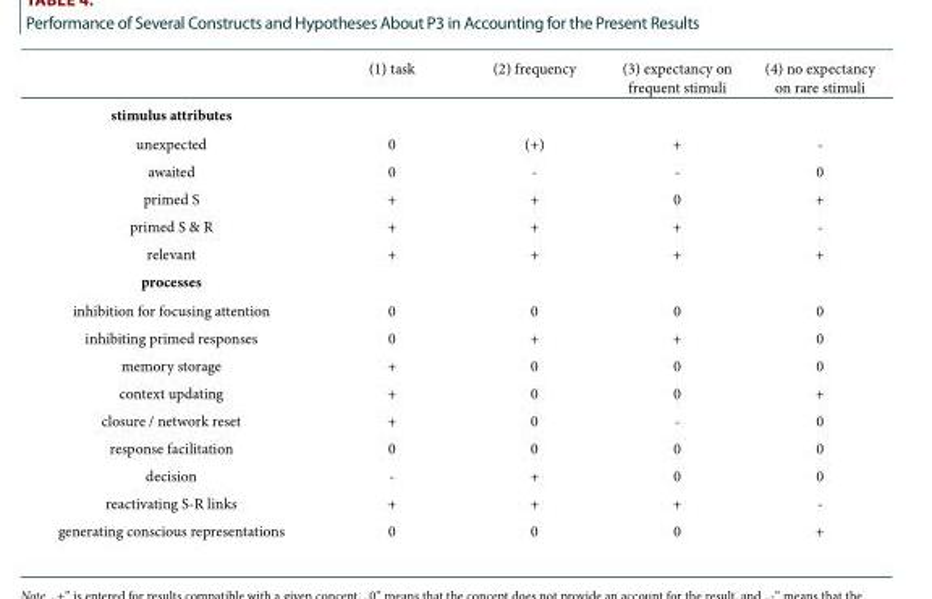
<table><thead><tr><td></td><td>(1) task</td><td>(2) frequency</td><td>(3) expectancy on frequent stimuli</td><td>(4) no expectancy on rare stimuli</td></tr></thead><tbody><tr><td colspan="5">stimulus attributes</td></tr><tr><td>unexpected</td><td>0</td><td>(+)</td><td>+</td><td>-</td></tr><tr><td>awaited</td><td>0</td><td>-</td><td>-</td><td>0</td></tr><tr><td>primed S</td><td>+</td><td>+</td><td>0</td><td>+</td></tr><tr><td>primed S &amp; R</td><td>+</td><td>+</td><td>+</td><td>-</td></tr><tr><td>relevant</td><td>+</td><td>+</td><td>+</td><td>+</td></tr><tr><td colspan="5">processes</td></tr><tr><td>inhibition for focusing attention</td><td>0</td><td>0</td><td>0</td><td>0</td></tr><tr><td>inhibiting primed responses</td><td>0</td><td>+</td><td>+</td><td>0</td></tr><tr><td>memory storage</td><td>+</td><td>0</td><td>0</td><td>0</td></tr><tr><td>context updating</td><td>+</td><td>0</td><td>0</td><td>+</td></tr><tr><td>closure / network reset</td><td>+</td><td>0</td><td>-</td><td>0</td></tr><tr><td>response facilitation</td><td>0</td><td>0</td><td>0</td><td>0</td></tr><tr><td>decision</td><td>-</td><td>+</td><td>0</td><td>0</td></tr><tr><td>reactivating S-R links</td><td>+</td><td>+</td><td>+</td><td>-</td></tr><tr><td>generating conscious representations</td><td>0</td><td>0</td><td>0</td><td>+</td></tr></tbody></table>